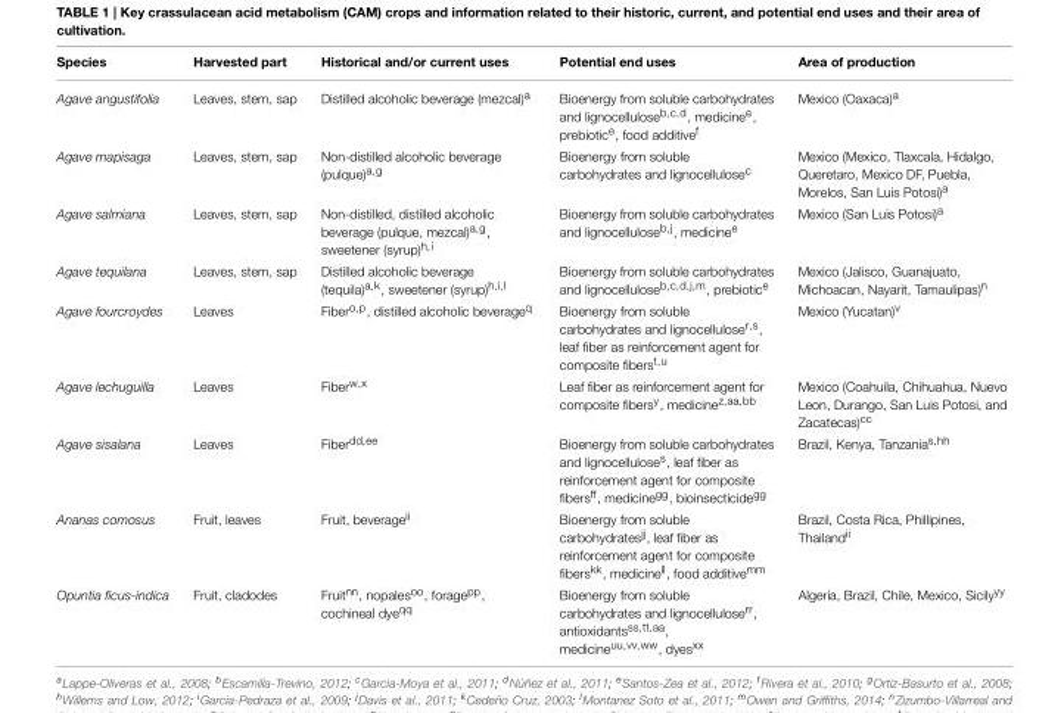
<table><thead><tr><td>Species</td><td>Harvested part</td><td>Historical and/or current uses</td><td>Potential end uses</td><td>Area of production</td></tr></thead><tbody><tr><td>Agave angustifolia</td><td>Leaves, stem, sap</td><td>Distilled alcoholic beverage (mezcal)<sup>a</sup></td><td>Bioenergy from soluble carbohydrates and lignocellulose<sup>b,c,d</sup>, medicine<sup>e</sup>, prebiotic<sup>e</sup>, food additive<sup>f</sup></td><td>Mexico (Oaxaca)<sup>a</sup></td></tr><tr><td>Agave mapisaga</td><td>Leaves, stem, sap</td><td>Non-distilled alcoholic beverage (pulque)<sup>a,g</sup></td><td>Bioenergy from soluble carbohydrates and lignocellulose<sup>c</sup></td><td>Mexico (Mexico, Tlaxcala, Hidalgo, Queretaro, Mexico DF, Puebla, Morelos, San Luis Potosi)<sup>a</sup></td></tr><tr><td>Agave salmiana</td><td>Leaves, stem, sap</td><td>Non-distilled, distilled alcoholic beverage (pulque, mezcal)<sup>a,g</sup>, sweetener (syrup)<sup>h,i</sup></td><td>Bioenergy from soluble carbohydrates and lignocellulose<sup>b,j</sup>, medicine<sup>e</sup></td><td>Mexico (San Luis Potosi)<sup>a</sup></td></tr><tr><td>Agave tequilana</td><td>Leaves, stem, sap</td><td>Distilled alcoholic beverage (tequila)<sup>a,k</sup>, sweetener (syrup)<sup>h,i,l</sup></td><td>Bioenergy from soluble carbohydrates and lignocellulose<sup>b,c,d,j,m</sup>, prebiotic<sup>e</sup></td><td>Mexico (Jalisco, Guanajuato, Michoacan, Nayarit, Tamaulipas)<sup>n</sup></td></tr><tr><td>Agave fourcroydes</td><td>Leaves</td><td>Fiber<sup>o,p</sup>, distilled alcoholic beverage<sup>q</sup></td><td>Bioenergy from soluble carbohydrates and lignocellulose<sup>r,s</sup>, leaf fiber as reinforcement agent for composite fibers<sup>t,u</sup></td><td>Mexico (Yucatan)<sup>v</sup></td></tr><tr><td>Agave lechuguilla</td><td>Leaves</td><td>Fiber<sup>w,x</sup></td><td>Leaf fiber as reinforcement agent for composite fibers<sup>y</sup>, medicine<sup>z,aa,bb</sup></td><td>Mexico (Coahuila, Chihuahua, Nuevo Leon, Durango, San Luis Potosi, and Zacatecas)<sup>cc</sup></td></tr><tr><td>Agave sisalana</td><td>Leaves</td><td>Fiber<sup>dd,ee</sup></td><td>Bioenergy from soluble carbohydrates and lignocellulose<sup>s</sup>, leaf fiber as reinforcement agent for composite fibers<sup>ff</sup>, medicine<sup>gg</sup>, bioinsecticide<sup>gg</sup></td><td>Brazil, Kenya, Tanzania<sup>s,hh</sup></td></tr><tr><td>Ananas comosus</td><td>Fruit, leaves</td><td>Fruit, beverage<sup>ii</sup></td><td>Bioenergy from soluble carbohydrates<sup>jj</sup>, leaf fiber as reinforcement agent for composite fibers<sup>kk</sup>, medicine<sup>ll</sup>, food additive<sup>mm</sup></td><td>Brazil, Costa Rica, Phillipines, Thailand<sup>ii</sup></td></tr><tr><td>Opuntia ficus-indica</td><td>Fruit, cladodes</td><td>Fruit<sup>nn</sup>, nopales<sup>oo</sup>, forage<sup>pp</sup>, cochineal dye<sup>qq</sup></td><td>Bioenergy from soluble carbohydrates and lignocellulose<sup>rr</sup>, antioxidants<sup>ss,tt,aa</sup>, medicine<sup>uu,vv,ww</sup>, dyes<sup>xx</sup></td><td>Algeria, Brazil, Chile, Mexico, Sicily<sup>yy</sup></td></tr></tbody></table>